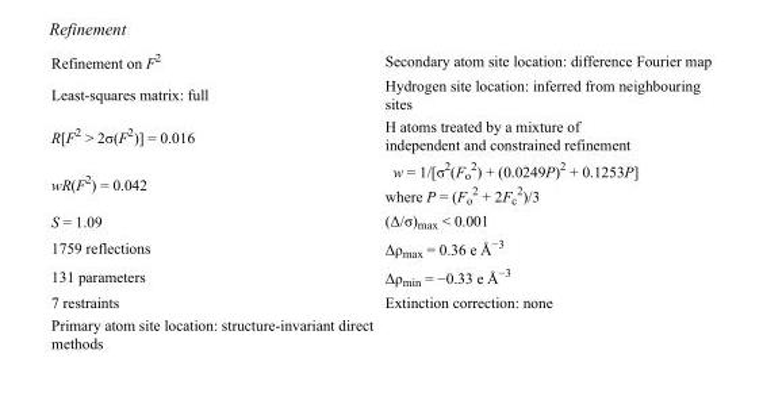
<table><tbody><tr><td>Refinement on F<sup>2</sup></td><td>Secondary atom site location: difference Fourier map</td></tr><tr><td>Least-squares matrix: full</td><td>Hydrogen site location: inferred from neighbouring sites</td></tr><tr><td>R[F<sup>2</sup> &gt; 2σ(F<sup>2</sup>)] = 0.016</td><td>H atoms treated by a mixture of independent and constrained refinement</td></tr><tr><td>wR(F<sup>2</sup>) = 0.042</td><td>w = 1/[σ<sup>2</sup>(F<sub>o</sub> <sup>2</sup>) + (0.0249P)<sup>2</sup> + 0.1253P] where P = (F<sub>o</sub> <sup>2</sup> + 2F<sub>c</sub> <sup>2</sup>)/3</td></tr><tr><td>S = 1.09</td><td>(Δ/σ)<sub>max</sub> &lt; 0.001</td></tr><tr><td>1759 reflections</td><td>Δρ<sub>max</sub> = 0.36 e Å<sup>−3</sup></td></tr><tr><td>131 parameters</td><td>Δρ<sub>min</sub> = −0.33 e Å<sup>−3</sup></td></tr><tr><td>7 restraints</td><td>Extinction correction: none</td></tr><tr><td>Primary atom site location: structure-invariant direct methods</td><td></td></tr></tbody></table>